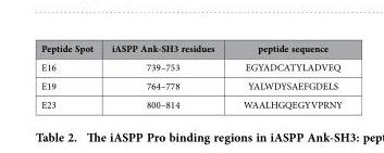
<table><thead><tr><td>Peptide Spot</td><td>iASPP Ank-SH3 residues</td><td>peptide sequence</td></tr></thead><tbody><tr><td>E16</td><td>739–753</td><td>EGYADCATYLADVEQ</td></tr><tr><td>E19</td><td>764–778</td><td>YALWDYSAEFGDELS</td></tr><tr><td>E23</td><td>800–814</td><td>WAALHGQEGYVPRNY</td></tr></tbody></table>